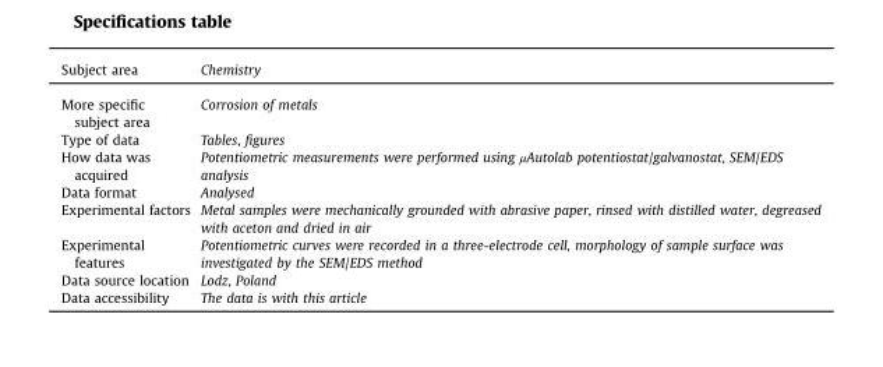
<table><thead><tr><td>Subject area</td><td>Chemistry</td></tr></thead><tbody><tr><td>More specific subject area</td><td>Corrosion of metals</td></tr><tr><td>Type of data</td><td>Tables, figures</td></tr><tr><td>How data was acquired</td><td>Potentiometric measurements were performed using μAutolab potentiostat/galvanostat, SEM/EDS analysis</td></tr><tr><td>Data format</td><td>Analysed</td></tr><tr><td>Experimental factors</td><td>Metal samples were mechanically grounded with abrasive paper, rinsed with distilled water, degreased with aceton and dried in air</td></tr><tr><td>Experimental features</td><td>Potentiometric curves were recorded in a three-electrode cell, morphology of sample surface was investigated by the SEM/EDS method</td></tr><tr><td>Data source location</td><td>Lodz, Poland</td></tr><tr><td>Data accessibility</td><td>The data is with this article</td></tr></tbody></table>